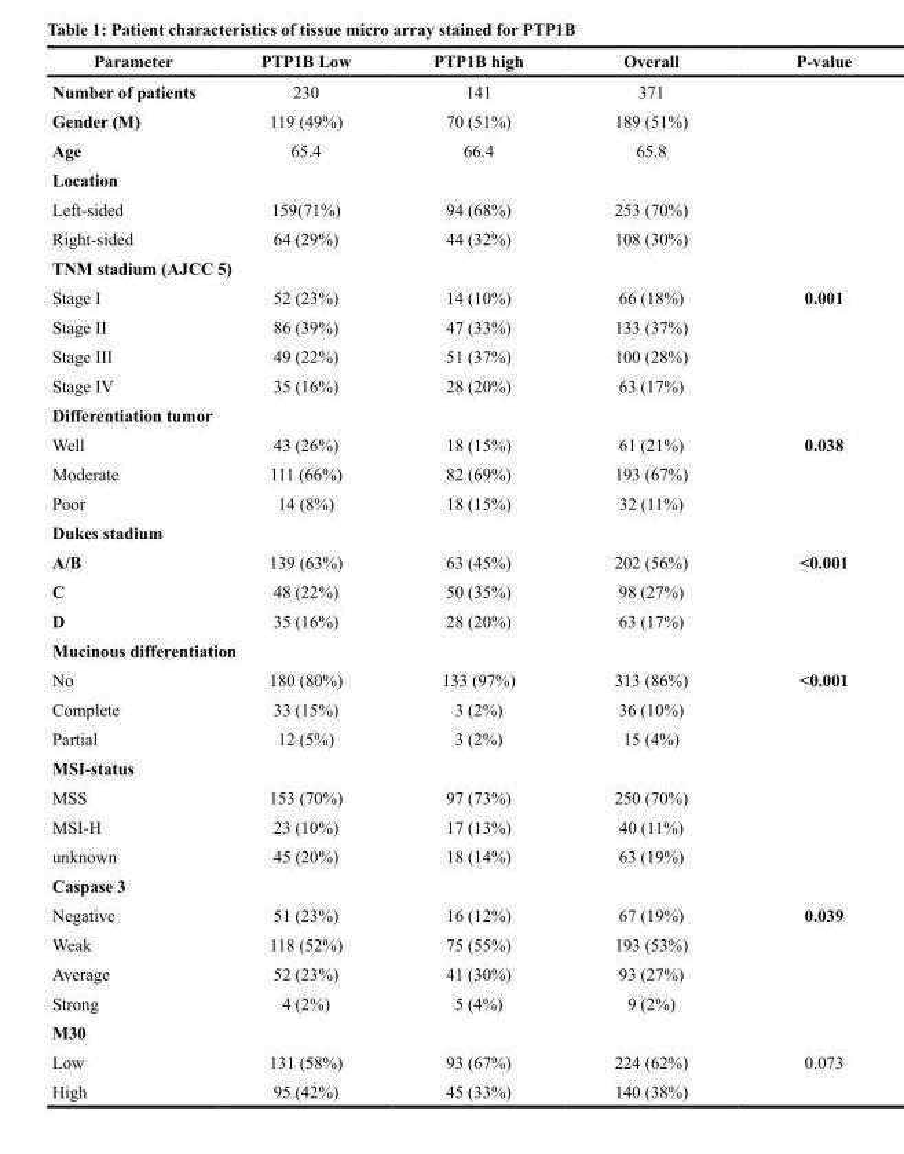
<table><thead><tr><td>Parameter</td><td>PTP1B Low</td><td>PTP1B high</td><td>Overall</td><td>P-value</td></tr></thead><tbody><tr><td>Number of patients</td><td>230</td><td>141</td><td>371</td><td></td></tr><tr><td>Gender (M)</td><td>119 (49%)</td><td>70 (51%)</td><td>189 (51%)</td><td></td></tr><tr><td>Age</td><td>65.4</td><td>66.4</td><td>65.8</td><td></td></tr><tr><td colspan="5">Location</td></tr><tr><td>Left-sided</td><td>159(71%)</td><td>94 (68%)</td><td>253 (70%)</td><td></td></tr><tr><td>Right-sided</td><td>64 (29%)</td><td>44 (32%)</td><td>108 (30%)</td><td></td></tr><tr><td colspan="5">TNM stadium (AJCC 5)</td></tr><tr><td>Stage I</td><td>52 (23%)</td><td>14 (10%)</td><td>66 (18%)</td><td>0.001</td></tr><tr><td>Stage II</td><td>86 (39%)</td><td>47 (33%)</td><td>133 (37%)</td><td></td></tr><tr><td>Stage III</td><td>49 (22%)</td><td>51 (37%)</td><td>100 (28%)</td><td></td></tr><tr><td>Stage IV</td><td>35 (16%)</td><td>28 (20%)</td><td>63 (17%)</td><td></td></tr><tr><td colspan="5">Differentiation tumor</td></tr><tr><td>Well</td><td>43 (26%)</td><td>18 (15%)</td><td>61 (21%)</td><td>0.038</td></tr><tr><td>Moderate</td><td>111 (66%)</td><td>82 (69%)</td><td>193 (67%)</td><td></td></tr><tr><td>Poor</td><td>14 (8%)</td><td>18 (15%)</td><td>32 (11%)</td><td></td></tr><tr><td colspan="5">Dukes stadium</td></tr><tr><td>A/B</td><td>139 (63%)</td><td>63 (45%)</td><td>202 (56%)</td><td>&lt;0.001</td></tr><tr><td>C</td><td>48 (22%)</td><td>50 (35%)</td><td>98 (27%)</td><td></td></tr><tr><td>D</td><td>35 (16%)</td><td>28 (20%)</td><td>63 (17%)</td><td></td></tr><tr><td colspan="5">Mucinous differentiation</td></tr><tr><td>No</td><td>180 (80%)</td><td>133 (97%)</td><td>313 (86%)</td><td>&lt;0.001</td></tr><tr><td>Complete</td><td>33 (15%)</td><td>3 (2%)</td><td>36 (10%)</td><td></td></tr><tr><td>Partial</td><td>12 (5%)</td><td>3 (2%)</td><td>15 (4%)</td><td></td></tr><tr><td colspan="5">MSI-status</td></tr><tr><td>MSS</td><td>153 (70%)</td><td>97 (73%)</td><td>250 (70%)</td><td></td></tr><tr><td>MSI-H</td><td>23 (10%)</td><td>17 (13%)</td><td>40 (11%)</td><td></td></tr><tr><td>unknown</td><td>45 (20%)</td><td>18 (14%)</td><td>63 (19%)</td><td></td></tr><tr><td colspan="5">Caspase 3</td></tr><tr><td>Negative</td><td>51 (23%)</td><td>16 (12%)</td><td>67 (19%)</td><td>0.039</td></tr><tr><td>Weak</td><td>118 (52%)</td><td>75 (55%)</td><td>193 (53%)</td><td></td></tr><tr><td>Average</td><td>52 (23%)</td><td>41 (30%)</td><td>93 (27%)</td><td></td></tr><tr><td>Strong</td><td>4 (2%)</td><td>5 (4%)</td><td>9 (2%)</td><td></td></tr><tr><td colspan="5">M30</td></tr><tr><td>Low</td><td>131 (58%)</td><td>93 (67%)</td><td>224 (62%)</td><td>0.073</td></tr><tr><td>High</td><td>95 (42%)</td><td>45 (33%)</td><td>140 (38%)</td><td></td></tr></tbody></table>